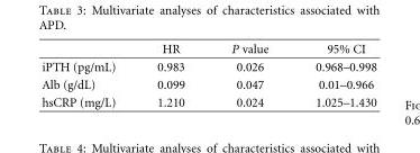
<table><thead><tr><td></td><td>HR</td><td>P value</td><td>95% CI</td></tr></thead><tbody><tr><td>iPTH (pg/mL)</td><td>0.983</td><td>0.026</td><td>0.968–0.998</td></tr><tr><td>Alb (g/dL)</td><td>0.099</td><td>0.047</td><td>0.01–0.966</td></tr><tr><td>hsCRP (mg/L)</td><td>1.210</td><td>0.024</td><td>1.025–1.430</td></tr></tbody></table>